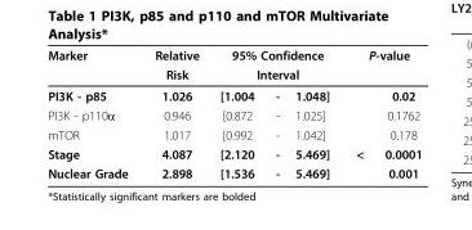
<table><thead><tr><td rowspan="3">Marker PI3K - p85</td><td rowspan="3">Relative Risk 1.026</td><td rowspan="2" colspan="3">95% Confidence Interval</td><td colspan="2">P-value</td></tr><tr><td rowspan="2"></td><td rowspan="2">0.02</td></tr><tr><td>[1.004</td><td>-</td><td>1.048]</td></tr></thead><tbody><tr><td>PI3K - p110α</td><td>0.946</td><td>[0.872</td><td>-</td><td>1.025]</td><td></td><td>0.1762</td></tr><tr><td>mTOR</td><td>1.017</td><td>[0.992</td><td>-</td><td>1.042]</td><td></td><td>0.178</td></tr><tr><td>Stage</td><td>4.087</td><td>[2.120</td><td>-</td><td>5.469]</td><td>&lt;</td><td>0.0001</td></tr><tr><td>Nuclear Grade</td><td>2.898</td><td>[1.536</td><td>-</td><td>5.469]</td><td></td><td>0.001</td></tr></tbody></table>